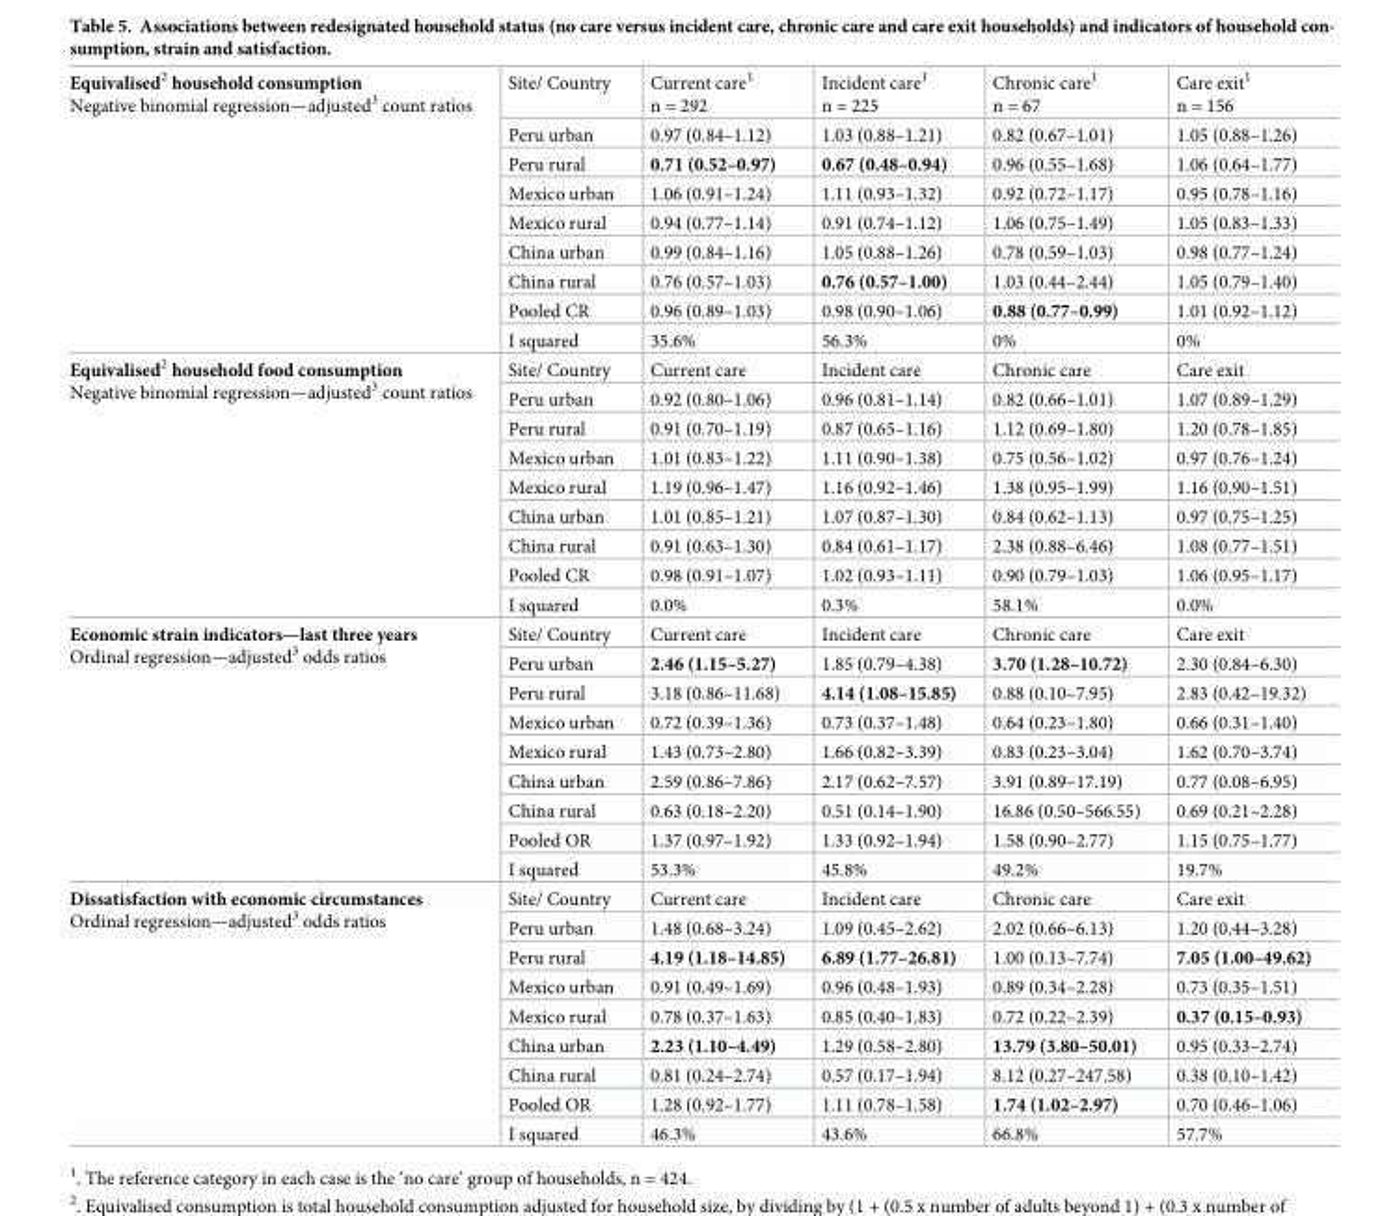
<table><tbody><tr><td rowspan="9">Equivalised<sup>2</sup> household consumption Negative binomial regression—adjusted<sup>3</sup> count ratios</td><td>Site/ Country</td><td>Current care<sup>1</sup> n = 292</td><td>Incident care<sup>1</sup> n = 225</td><td>Chronic care<sup>1</sup> n = 67</td><td>Care exit<sup>1</sup> n = 156</td></tr><tr><td>Peru urban</td><td>0.97 (0.84–1.12)</td><td>1.03 (0.88–1.21)</td><td>0.82 (0.67–1.01)</td><td>1.05 (0.88–1.26)</td></tr><tr><td>Peru rural</td><td>0.71 (0.52–0.97)</td><td>0.67 (0.48–0.94)</td><td>0.96 (0.55–1.68)</td><td>1.06 (0.64–1.77)</td></tr><tr><td>Mexico urban</td><td>1.06 (0.91–1.24)</td><td>1.11 (0.93–1.32)</td><td>0.92 (0.72–1.17)</td><td>0.95 (0.78–1.16)</td></tr><tr><td>Mexico rural</td><td>0.94 (0.77–1.14)</td><td>0.91 (0.74–1.12)</td><td>1.06 (0.75–1.49)</td><td>1.05 (0.83–1.33)</td></tr><tr><td>China urban</td><td>0.99 (0.84–1.16)</td><td>1.05 (0.88–1.26)</td><td>0.78 (0.59–1.03)</td><td>0.98 (0.77–1.24)</td></tr><tr><td>China rural</td><td>0.76 (0.57–1.03)</td><td>0.76 (0.57–1.00)</td><td>1.03 (0.44–2.44)</td><td>1.05 (0.79–1.40)</td></tr><tr><td>Pooled CR</td><td>0.96 (0.89–1.03)</td><td>0.98 (0.90–1.06)</td><td>0.88 (0.77–0.99)</td><td>1.01 (0.92–1.12)</td></tr><tr><td>I squared</td><td>35.6%</td><td>56.3%</td><td>0%</td><td>0%</td></tr><tr><td rowspan="9">Equivalised<sup>2</sup> household food consumption Negative binomial regression—adjusted<sup>3</sup> count ratios</td><td>Site/ Country</td><td>Current care</td><td>Incident care</td><td>Chronic care</td><td>Care exit</td></tr><tr><td>Peru urban</td><td>0.92 (0.80–1.06)</td><td>0.96 (0.81–1.14)</td><td>0.82 (0.66–1.01)</td><td>1.07 (0.89–1.29)</td></tr><tr><td>Peru rural</td><td>0.91 (0.70–1.19)</td><td>0.87 (0.65–1.16)</td><td>1.12 (0.69–1.80)</td><td>1.20 (0.78–1.85)</td></tr><tr><td>Mexico urban</td><td>1.01 (0.83–1.22)</td><td>1.11 (0.90–1.38)</td><td>0.75 (0.56–1.02)</td><td>0.97 (0.76–1.24)</td></tr><tr><td>Mexico rural</td><td>1.19 (0.96–1.47)</td><td>1.16 (0.92–1.46)</td><td>1.38 (0.95–1.99)</td><td>1.16 (0.90–1.51)</td></tr><tr><td>China urban</td><td>1.01 (0.85–1.21)</td><td>1.07 (0.87–1.30)</td><td>0.84 (0.62–1.13)</td><td>0.97 (0.75–1.25)</td></tr><tr><td>China rural</td><td>0.91 (0.63–1.30)</td><td>0.84 (0.61–1.17)</td><td>2.38 (0.88–6.46)</td><td>1.08 (0.77–1.51)</td></tr><tr><td>Pooled CR</td><td>0.98 (0.91–1.07)</td><td>1.02 (0.93–1.11)</td><td>0.90 (0.79–1.03)</td><td>1.06 (0.95–1.17)</td></tr><tr><td>I squared</td><td>0.0%</td><td>0.3%</td><td>58.1%</td><td>0.0%</td></tr><tr><td rowspan="9">Economic strain indicators—last three years Ordinal regression—adjusted<sup>3</sup> odds ratios</td><td>Site/ Country</td><td>Current care</td><td>Incident care</td><td>Chronic care</td><td>Care exit</td></tr><tr><td>Peru urban</td><td>2.46 (1.15–5.27)</td><td>1.85 (0.79–4.38)</td><td>3.70 (1.28–10.72)</td><td>2.30 (0.84–6.30)</td></tr><tr><td>Peru rural</td><td>3.18 (0.86–11.68)</td><td>4.14 (1.08–15.85)</td><td>0.88 (0.10–7.95)</td><td>2.83 (0.42–19.32)</td></tr><tr><td>Mexico urban</td><td>0.72 (0.39–1.36)</td><td>0.73 (0.37–1.48)</td><td>0.64 (0.23–1.80)</td><td>0.66 (0.31–1.40)</td></tr><tr><td>Mexico rural</td><td>1.43 (0.73–2.80)</td><td>1.66 (0.82–3.39)</td><td>0.83 (0.23–3.04)</td><td>1.62 (0.70–3.74)</td></tr><tr><td>China urban</td><td>2.59 (0.86–7.86)</td><td>2.17 (0.62–7.57)</td><td>3.91 (0.89–17.19)</td><td>0.77 (0.08–6.95)</td></tr><tr><td>China rural</td><td>0.63 (0.18–2.20)</td><td>0.51 (0.14–1.90)</td><td>16.86 (0.50–566.55)</td><td>0.69 (0.21–2.28)</td></tr><tr><td>Pooled OR</td><td>1.37 (0.97–1.92)</td><td>1.33 (0.92–1.94)</td><td>1.58 (0.90–2.77)</td><td>1.15 (0.75–1.77)</td></tr><tr><td>I squared</td><td>53.3%</td><td>45.8%</td><td>49.2%</td><td>19.7%</td></tr><tr><td rowspan="9">Dissatisfaction with economic circumstances Ordinal regression—adjusted<sup>3</sup> odds ratios</td><td>Site/ Country</td><td>Current care</td><td>Incident care</td><td>Chronic care</td><td>Care exit</td></tr><tr><td>Peru urban</td><td>1.48 (0.68–3.24)</td><td>1.09 (0.45–2.62)</td><td>2.02 (0.66–6.13)</td><td>1.20 (0.44–3.28)</td></tr><tr><td>Peru rural</td><td>4.19 (1.18–14.85)</td><td>6.89 (1.77–26.81)</td><td>1.00 (0.13–7.74)</td><td>7.05 (1.00–49.62)</td></tr><tr><td>Mexico urban</td><td>0.91 (0.49–1.69)</td><td>0.96 (0.48–1.93)</td><td>0.89 (0.34–2.28)</td><td>0.73 (0.35–1.51)</td></tr><tr><td>Mexico rural</td><td>0.78 (0.37–1.63)</td><td>0.85 (0.40–1.83)</td><td>0.72 (0.22–2.39)</td><td>0.37 (0.15–0.93)</td></tr><tr><td>China urban</td><td>2.23 (1.10–4.49)</td><td>1.29 (0.58–2.80)</td><td>13.79 (3.80–50.01)</td><td>0.95 (0.33–2.74)</td></tr><tr><td>China rural</td><td>0.81 (0.24–2.74)</td><td>0.57 (0.17–1.94)</td><td>8.12 (0.27–247.58)</td><td>0.38 (0.10–1.42)</td></tr><tr><td>Pooled OR</td><td>1.28 (0.92–1.77)</td><td>1.11 (0.78–1.58)</td><td>1.74 (1.02–2.97)</td><td>0.70 (0.46–1.06)</td></tr><tr><td>I squared</td><td>46.3%</td><td>43.6%</td><td>66.8%</td><td>57.7%</td></tr></tbody></table>